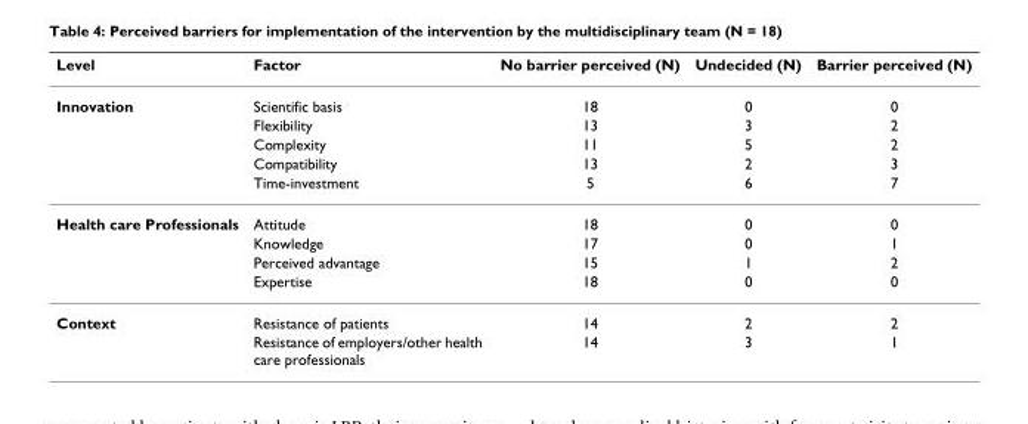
<table><thead><tr><td>Level</td><td>Factor</td><td>No barrier perceived (N)</td><td>Undecided (N)</td><td>Barrier perceived (N)</td></tr></thead><tbody><tr><td rowspan="5">Innovation</td><td>Scientific basis</td><td>18</td><td>0</td><td>0</td></tr><tr><td>Flexibility</td><td>13</td><td>3</td><td>2</td></tr><tr><td>Complexity</td><td>11</td><td>5</td><td>2</td></tr><tr><td>Compatibility</td><td>13</td><td>2</td><td>3</td></tr><tr><td>Time-investment</td><td>5</td><td>6</td><td>7</td></tr><tr><td rowspan="4">Health care Professionals</td><td>Attitude</td><td>18</td><td>0</td><td>0</td></tr><tr><td>Knowledge</td><td>17</td><td>0</td><td>1</td></tr><tr><td>Perceived advantage</td><td>15</td><td>1</td><td>2</td></tr><tr><td>Expertise</td><td>18</td><td>0</td><td>0</td></tr><tr><td rowspan="2">Context</td><td>Resistance of patients</td><td>14</td><td>2</td><td>2</td></tr><tr><td>Resistance of employers/other health care professionals</td><td>14</td><td>3</td><td>1</td></tr></tbody></table>